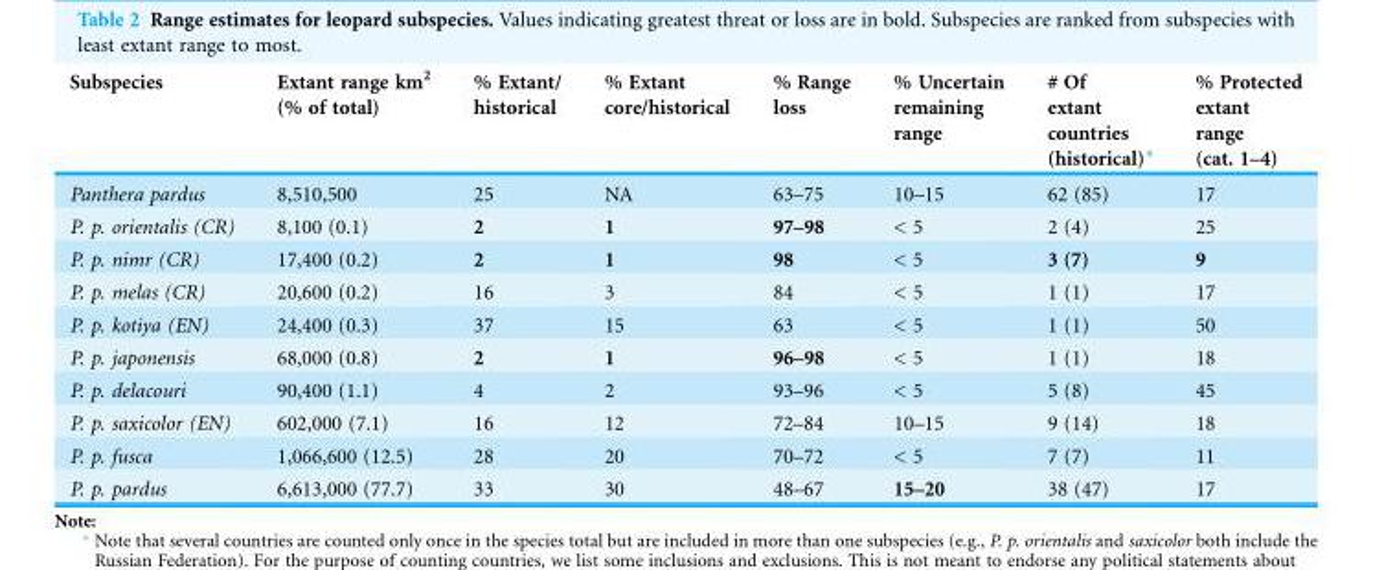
<table><thead><tr><td>Subspecies</td><td>Extant range km<sup>2</sup> (% of total)</td><td>% Extant/ historical</td><td>% Extant core/historical</td><td>% Range loss</td><td>% Uncertain remaining range</td><td># Of extant countries (historical)*</td><td>% Protected extant range (cat. 1–4)</td></tr></thead><tbody><tr><td>Panthera pardus</td><td>8,510,500</td><td>25</td><td>NA</td><td>63–75</td><td>10–15</td><td>62 (85)</td><td>17</td></tr><tr><td>P. p. orientalis (CR)</td><td>8,100 (0.1)</td><td>2</td><td>1</td><td>97–98</td><td>&lt; 5</td><td>2 (4)</td><td>25</td></tr><tr><td>P. p. nimr (CR)</td><td>17,400 (0.2)</td><td>2</td><td>1</td><td>98</td><td>&lt; 5</td><td>3 (7)</td><td>9</td></tr><tr><td>P. p. melas (CR)</td><td>20,600 (0.2)</td><td>16</td><td>3</td><td>84</td><td>&lt; 5</td><td>1 (1)</td><td>17</td></tr><tr><td>P. p. kotiya (EN)</td><td>24,400 (0.3)</td><td>37</td><td>15</td><td>63</td><td>&lt; 5</td><td>1 (1)</td><td>50</td></tr><tr><td>P. p. japonensis</td><td>68,000 (0.8)</td><td>2</td><td>1</td><td>96–98</td><td>&lt; 5</td><td>1 (1)</td><td>18</td></tr><tr><td>P. p. delacouri</td><td>90,400 (1.1)</td><td>4</td><td>2</td><td>93–96</td><td>&lt; 5</td><td>5 (8)</td><td>45</td></tr><tr><td>P. p. saxicolor (EN)</td><td>602,000 (7.1)</td><td>16</td><td>12</td><td>72–84</td><td>10–15</td><td>9 (14)</td><td>18</td></tr><tr><td>P. p. fusca</td><td>1,066,600 (12.5)</td><td>28</td><td>20</td><td>70–72</td><td>&lt; 5</td><td>7 (7)</td><td>11</td></tr><tr><td>P. p. pardus</td><td>6,613,000 (77.7)</td><td>33</td><td>30</td><td>48–67</td><td>15–20</td><td>38 (47)</td><td>17</td></tr></tbody></table>